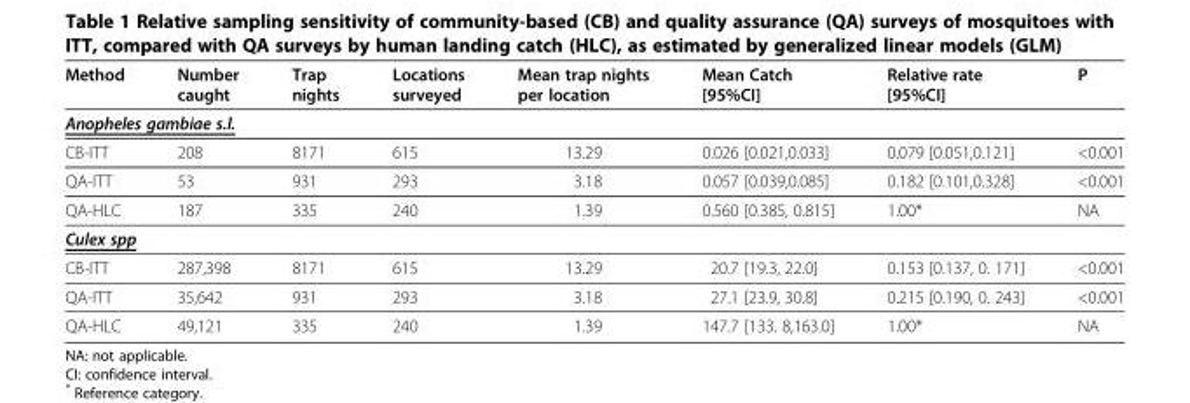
<table><thead><tr><td>Method</td><td>Number caught</td><td>Trap nights</td><td>Locations surveyed</td><td>Mean trap nights per location</td><td>Mean Catch [95%CI]</td><td>Relative rate [95%CI]</td><td>P</td></tr></thead><tbody><tr><td colspan="8">Anopheles gambiae s.l.</td></tr><tr><td>CB-ITT</td><td>208</td><td>8171</td><td>615</td><td>13.29</td><td>0.026 [0.021,0.033]</td><td>0.079 [0.051,0.121]</td><td>&lt;0.001</td></tr><tr><td>QA-ITT</td><td>53</td><td>931</td><td>293</td><td>3.18</td><td>0.057 [0.039,0.085]</td><td>0.182 [0.101,0.328]</td><td>&lt;0.001</td></tr><tr><td>QA-HLC</td><td>187</td><td>335</td><td>240</td><td>1.39</td><td>0.560 [0.385, 0.815]</td><td>1.00*</td><td>NA</td></tr><tr><td colspan="8">Culex spp</td></tr><tr><td>CB-ITT</td><td>287,398</td><td>8171</td><td>615</td><td>13.29</td><td>20.7 [19.3, 22.0]</td><td>0.153 [0.137, 0. 171]</td><td>&lt;0.001</td></tr><tr><td>QA-ITT</td><td>35,642</td><td>931</td><td>293</td><td>3.18</td><td>27.1 [23.9, 30.8]</td><td>0.215 [0.190, 0. 243]</td><td>&lt;0.001</td></tr><tr><td>QA-HLC</td><td>49,121</td><td>335</td><td>240</td><td>1.39</td><td>147.7 [133. 8,163.0]</td><td>1.00*</td><td>NA</td></tr></tbody></table>